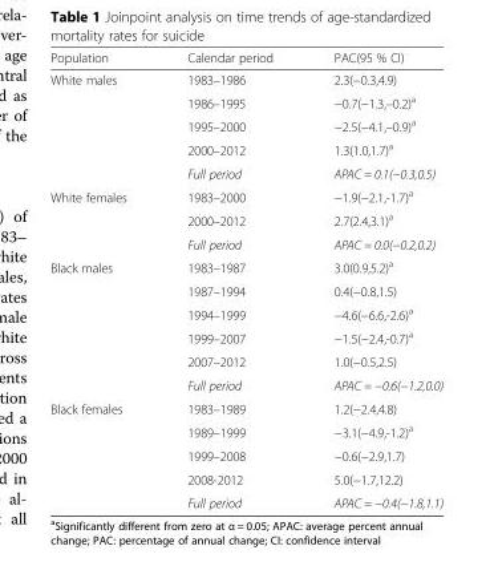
<table><thead><tr><td>Population</td><td>Calendar period</td><td>PAC(95 % CI)</td></tr></thead><tbody><tr><td rowspan="5">White males</td><td>1983–1986</td><td>2.3(−0.3,4.9)</td></tr><tr><td>1986–1995</td><td>−0.7(−1.3,–0.2)<sup>a</sup></td></tr><tr><td>1995–2000</td><td>−2.5(−4.1,–0.9)<sup>a</sup></td></tr><tr><td>2000–2012</td><td>1.3(1.0,1.7)<sup>a</sup></td></tr><tr><td>Full period</td><td>APAC = 0.1(−0.3,0.5)</td></tr><tr><td rowspan="3">White females</td><td>1983–2000</td><td>−1.9(−2.1,-1.7)<sup>a</sup></td></tr><tr><td>2000–2012</td><td>2.7(2.4,3.1)<sup>a</sup></td></tr><tr><td>Full period</td><td>APAC = 0.0(−0.2,0.2)</td></tr><tr><td rowspan="6">Black males</td><td>1983–1987</td><td>3.0(0.9,5.2)<sup>a</sup></td></tr><tr><td>1987–1994</td><td>0.4(−0.8,1.5)</td></tr><tr><td>1994–1999</td><td>−4.6(−6.6,-2.6)<sup>a</sup></td></tr><tr><td>1999–2007</td><td>−1.5(−2.4,-0.7)<sup>a</sup></td></tr><tr><td>2007–2012</td><td>1.0(−0.5,2.5)</td></tr><tr><td>Full period</td><td>APAC = −0.6(−1.2,0.0)</td></tr><tr><td rowspan="5">Black females</td><td>1983–1989</td><td>1.2(−2.4,4.8)</td></tr><tr><td>1989–1999</td><td>−3.1(−4.9,-1.2)<sup>a</sup></td></tr><tr><td>1999–2008</td><td>−0.6(−2.9,1.7)</td></tr><tr><td>2008-2012</td><td>5.0(−1.7,12.2)</td></tr><tr><td>Full period</td><td>APAC = −0.4(−1.8,1.1)</td></tr></tbody></table>